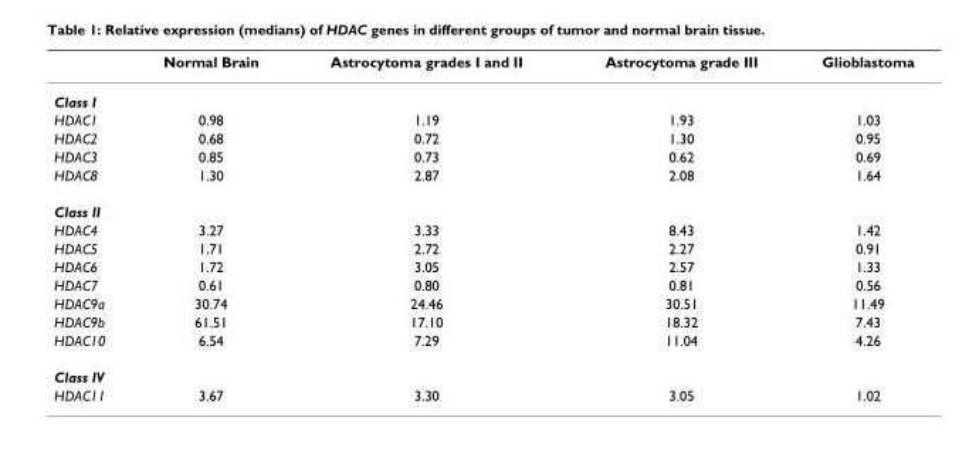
<table><thead><tr><td></td><td>Normal Brain</td><td>Astrocytoma grades I and II</td><td>Astrocytoma grade III</td><td>Glioblastoma</td></tr></thead><tbody><tr><td colspan="5">Class I</td></tr><tr><td>HDAC1</td><td>0.98</td><td>1.19</td><td>1.93</td><td>1.03</td></tr><tr><td>HDAC2</td><td>0.68</td><td>0.72</td><td>1.30</td><td>0.95</td></tr><tr><td>HDAC3</td><td>0.85</td><td>0.73</td><td>0.62</td><td>0.69</td></tr><tr><td>HDAC8</td><td>1.30</td><td>2.87</td><td>2.08</td><td>1.64</td></tr><tr><td colspan="5">Class II</td></tr><tr><td>HDAC4</td><td>3.27</td><td>3.33</td><td>8.43</td><td>1.42</td></tr><tr><td>HDAC5</td><td>1.71</td><td>2.72</td><td>2.27</td><td>0.91</td></tr><tr><td>HDAC6</td><td>1.72</td><td>3.05</td><td>2.57</td><td>1.33</td></tr><tr><td>HDAC7</td><td>0.61</td><td>0.80</td><td>0.81</td><td>0.56</td></tr><tr><td>HDAC9a</td><td>30.74</td><td>24.46</td><td>30.51</td><td>11.49</td></tr><tr><td>HDAC9b</td><td>61.51</td><td>17.10</td><td>18.32</td><td>7.43</td></tr><tr><td>HDAC10</td><td>6.54</td><td>7.29</td><td>11.04</td><td>4.26</td></tr><tr><td colspan="5">Class IV</td></tr><tr><td>HDAC11</td><td>3.67</td><td>3.30</td><td>3.05</td><td>1.02</td></tr></tbody></table>